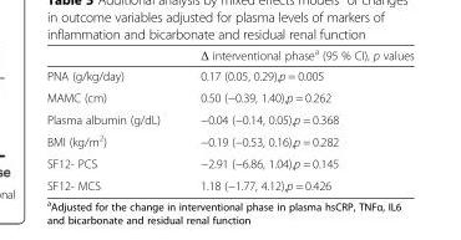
<table><thead><tr><td></td><td>Δ interventional phase<sup>a</sup> (95 % CI), p values</td></tr></thead><tbody><tr><td>PNA (g/kg/day)</td><td>0.17 (0.05, 0.29),p = 0.005</td></tr><tr><td>MAMC (cm)</td><td>0.50 (−0.39, 1.40),p = 0.262</td></tr><tr><td>Plasma albumin (g/dL)</td><td>−0.04 (−0.14, 0.05),p = 0.368</td></tr><tr><td>BMI (kg/m<sup>2</sup>)</td><td>−0.19 (−0.53, 0.16),p = 0.282</td></tr><tr><td>SF12- PCS</td><td>−2.91 (−6.86, 1.04),p = 0.145</td></tr><tr><td>SF12- MCS</td><td>1.18 (−1.77, 4.12),p = 0.426</td></tr></tbody></table>